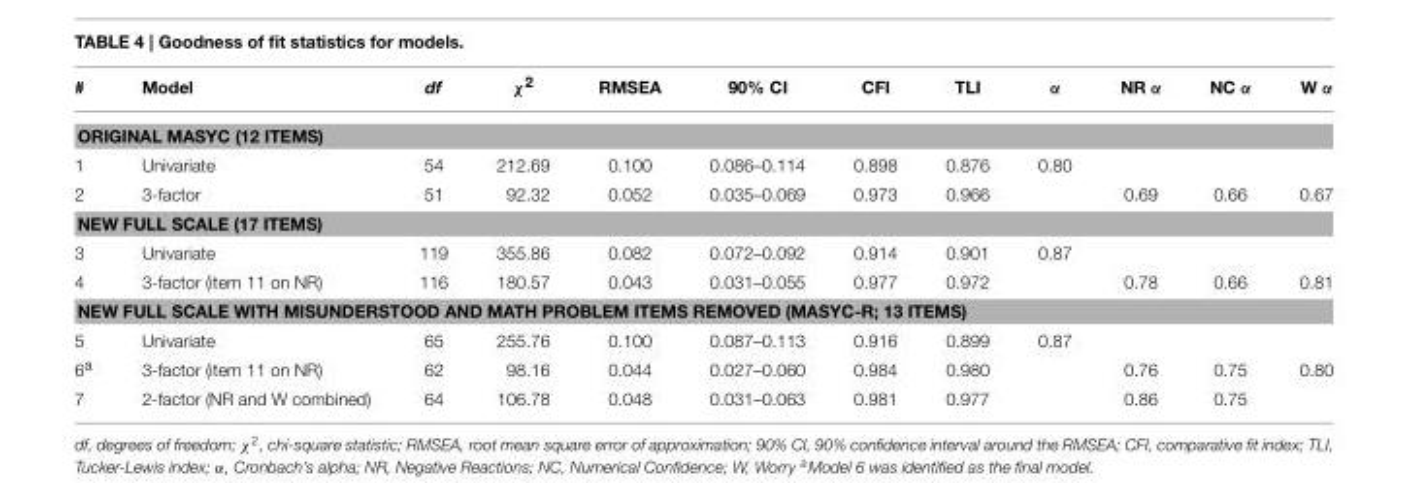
<table><thead><tr><td>#</td><td>Model</td><td>df</td><td>χ<sup>2</sup></td><td>RMSEA</td><td>90% CI</td><td>CFI</td><td>TLI</td><td>α</td><td>NR α</td><td>NC α</td><td>W α</td></tr></thead><tbody><tr><td colspan="12">ORIGINAL MASYC (12 ITEMS)</td></tr><tr><td>1</td><td>Univariate</td><td>54</td><td>212.69</td><td>0.100</td><td>0.086–0.114</td><td>0.898</td><td>0.876</td><td>0.80</td><td></td><td></td><td></td></tr><tr><td>2</td><td>3-factor</td><td>51</td><td>92.32</td><td>0.052</td><td>0.035–0.069</td><td>0.973</td><td>0.966</td><td></td><td>0.69</td><td>0.66</td><td>0.67</td></tr><tr><td colspan="12">NEW FULL SCALE (17 ITEMS)</td></tr><tr><td>3</td><td>Univariate</td><td>119</td><td>355.86</td><td>0.082</td><td>0.072–0.092</td><td>0.914</td><td>0.901</td><td>0.87</td><td></td><td></td><td></td></tr><tr><td>4</td><td>3-factor (item 11 on NR)</td><td>116</td><td>180.57</td><td>0.043</td><td>0.031–0.055</td><td>0.977</td><td>0.972</td><td></td><td>0.78</td><td>0.66</td><td>0.81</td></tr><tr><td colspan="12">NEW FULL SCALE WITH MISUNDERSTOOD AND MATH PROBLEM ITEMS REMOVED (MASYC-R; 13 ITEMS)</td></tr><tr><td>5</td><td>Univariate</td><td>65</td><td>255.76</td><td>0.100</td><td>0.087–0.113</td><td>0.916</td><td>0.899</td><td>0.87</td><td></td><td></td><td></td></tr><tr><td>6<sup>a</sup></td><td>3-factor (item 11 on NR)</td><td>62</td><td>98.16</td><td>0.044</td><td>0.027–0.060</td><td>0.984</td><td>0.980</td><td></td><td>0.76</td><td>0.75</td><td>0.80</td></tr><tr><td>7</td><td>2-factor (NR and W combined)</td><td>64</td><td>106.78</td><td>0.048</td><td>0.031–0.063</td><td>0.981</td><td>0.977</td><td></td><td>0.86</td><td>0.75</td><td></td></tr></tbody></table>